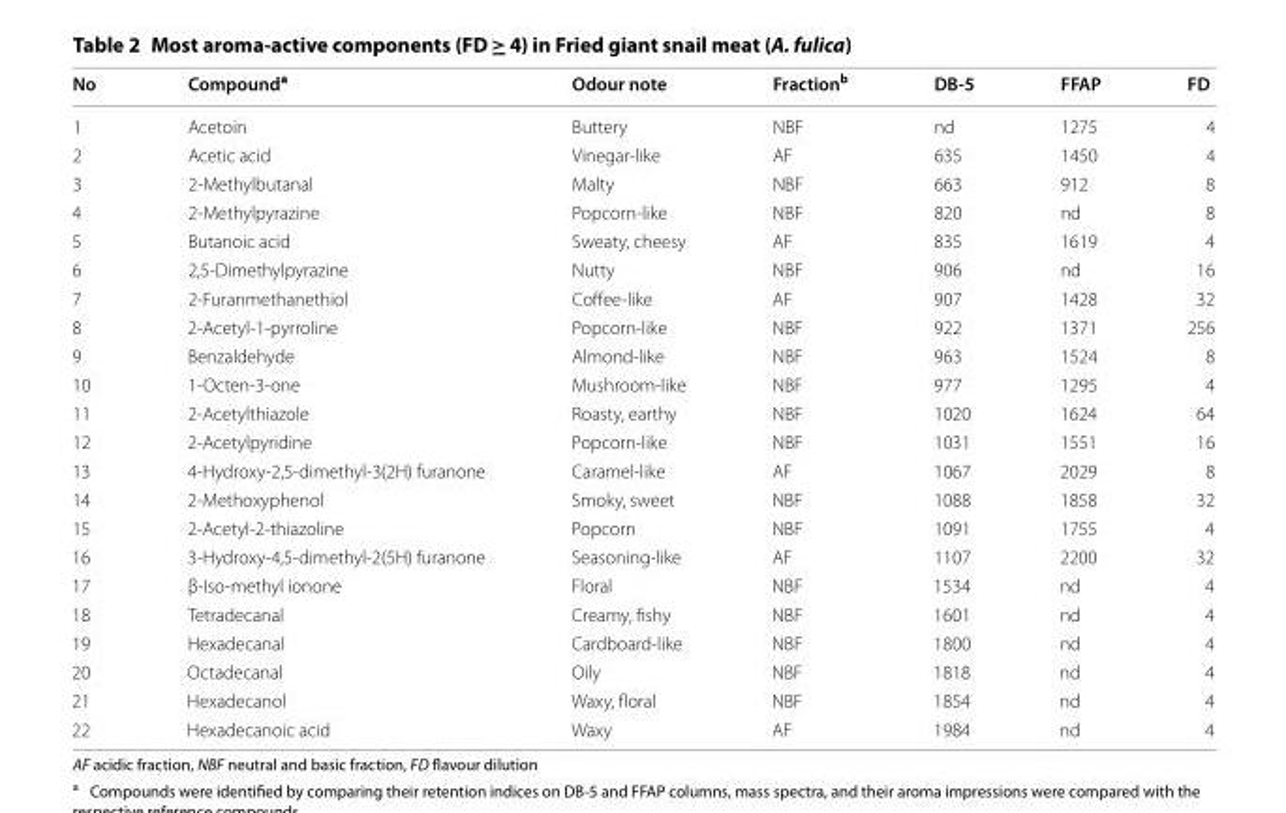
<table><thead><tr><td>No</td><td>Compound<sup>a</sup></td><td>Odour note</td><td>Fraction<sup>b</sup></td><td>DB-5</td><td>FFAP</td><td>FD</td></tr></thead><tbody><tr><td>1</td><td>Acetoin</td><td>Buttery</td><td>NBF</td><td>nd</td><td>1275</td><td>4</td></tr><tr><td>2</td><td>Acetic acid</td><td>Vinegar-like</td><td>AF</td><td>635</td><td>1450</td><td>4</td></tr><tr><td>3</td><td>2-Methylbutanal</td><td>Malty</td><td>NBF</td><td>663</td><td>912</td><td>8</td></tr><tr><td>4</td><td>2-Methylpyrazine</td><td>Popcorn-like</td><td>NBF</td><td>820</td><td>nd</td><td>8</td></tr><tr><td>5</td><td>Butanoic acid</td><td>Sweaty, cheesy</td><td>AF</td><td>835</td><td>1619</td><td>4</td></tr><tr><td>6</td><td>2,5-Dimethylpyrazine</td><td>Nutty</td><td>NBF</td><td>906</td><td>nd</td><td>16</td></tr><tr><td>7</td><td>2-Furanmethanethiol</td><td>Coffee-like</td><td>AF</td><td>907</td><td>1428</td><td>32</td></tr><tr><td>8</td><td>2-Acetyl-1-pyrroline</td><td>Popcorn-like</td><td>NBF</td><td>922</td><td>1371</td><td>256</td></tr><tr><td>9</td><td>Benzaldehyde</td><td>Almond-like</td><td>NBF</td><td>963</td><td>1524</td><td>8</td></tr><tr><td>10</td><td>1-Octen-3-one</td><td>Mushroom-like</td><td>NBF</td><td>977</td><td>1295</td><td>4</td></tr><tr><td>11</td><td>2-Acetylthiazole</td><td>Roasty, earthy</td><td>NBF</td><td>1020</td><td>1624</td><td>64</td></tr><tr><td>12</td><td>2-Acetylpyridine</td><td>Popcorn-like</td><td>NBF</td><td>1031</td><td>1551</td><td>16</td></tr><tr><td>13</td><td>4-Hydroxy-2,5-dimethyl-3(2H) furanone</td><td>Caramel-like</td><td>AF</td><td>1067</td><td>2029</td><td>8</td></tr><tr><td>14</td><td>2-Methoxyphenol</td><td>Smoky, sweet</td><td>NBF</td><td>1088</td><td>1858</td><td>32</td></tr><tr><td>15</td><td>2-Acetyl-2-thiazoline</td><td>Popcorn</td><td>NBF</td><td>1091</td><td>1755</td><td>4</td></tr><tr><td>16</td><td>3-Hydroxy-4,5-dimethyl-2(5H) furanone</td><td>Seasoning-like</td><td>AF</td><td>1107</td><td>2200</td><td>32</td></tr><tr><td>17</td><td>β-Iso-methyl ionone</td><td>Floral</td><td>NBF</td><td>1534</td><td>nd</td><td>4</td></tr><tr><td>18</td><td>Tetradecanal</td><td>Creamy, fishy</td><td>NBF</td><td>1601</td><td>nd</td><td>4</td></tr><tr><td>19</td><td>Hexadecanal</td><td>Cardboard-like</td><td>NBF</td><td>1800</td><td>nd</td><td>4</td></tr><tr><td>20</td><td>Octadecanal</td><td>Oily</td><td>NBF</td><td>1818</td><td>nd</td><td>4</td></tr><tr><td>21</td><td>Hexadecanol</td><td>Waxy, floral</td><td>NBF</td><td>1854</td><td>nd</td><td>4</td></tr><tr><td>22</td><td>Hexadecanoic acid</td><td>Waxy</td><td>AF</td><td>1984</td><td>nd</td><td>4</td></tr></tbody></table>